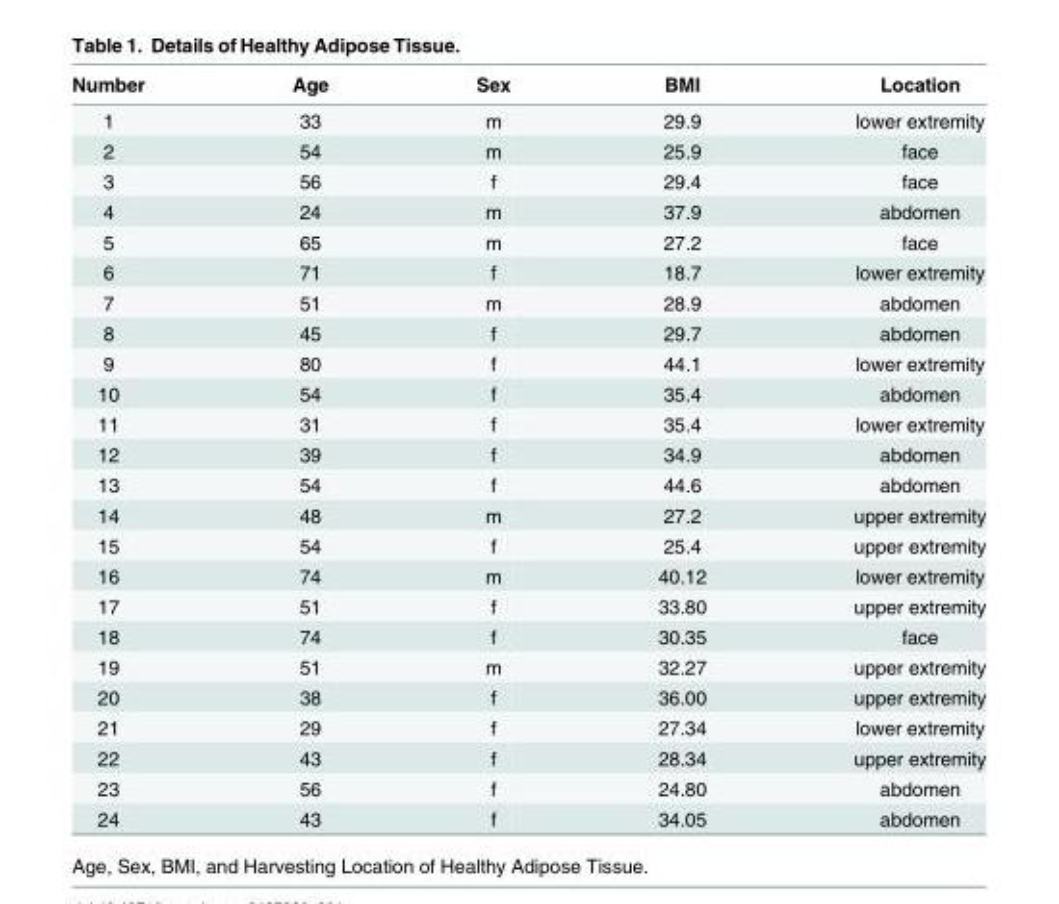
<table><thead><tr><td>Number</td><td>Age</td><td>Sex</td><td>BMI</td><td>Location</td></tr></thead><tbody><tr><td>1</td><td>33</td><td>m</td><td>29.9</td><td>lower extremity</td></tr><tr><td>2</td><td>54</td><td>m</td><td>25.9</td><td>face</td></tr><tr><td>3</td><td>56</td><td>f</td><td>29.4</td><td>face</td></tr><tr><td>4</td><td>24</td><td>m</td><td>37.9</td><td>abdomen</td></tr><tr><td>5</td><td>65</td><td>m</td><td>27.2</td><td>face</td></tr><tr><td>6</td><td>71</td><td>f</td><td>18.7</td><td>lower extremity</td></tr><tr><td>7</td><td>51</td><td>m</td><td>28.9</td><td>abdomen</td></tr><tr><td>8</td><td>45</td><td>f</td><td>29.7</td><td>abdomen</td></tr><tr><td>9</td><td>80</td><td>f</td><td>44.1</td><td>lower extremity</td></tr><tr><td>10</td><td>54</td><td>f</td><td>35.4</td><td>abdomen</td></tr><tr><td>11</td><td>31</td><td>f</td><td>35.4</td><td>lower extremity</td></tr><tr><td>12</td><td>39</td><td>f</td><td>34.9</td><td>abdomen</td></tr><tr><td>13</td><td>54</td><td>f</td><td>44.6</td><td>abdomen</td></tr><tr><td>14</td><td>48</td><td>m</td><td>27.2</td><td>upper extremity</td></tr><tr><td>15</td><td>54</td><td>f</td><td>25.4</td><td>upper extremity</td></tr><tr><td>16</td><td>74</td><td>m</td><td>40.12</td><td>lower extremity</td></tr><tr><td>17</td><td>51</td><td>f</td><td>33.80</td><td>upper extremity</td></tr><tr><td>18</td><td>74</td><td>f</td><td>30.35</td><td>face</td></tr><tr><td>19</td><td>51</td><td>m</td><td>32.27</td><td>upper extremity</td></tr><tr><td>20</td><td>38</td><td>f</td><td>36.00</td><td>upper extremity</td></tr><tr><td>21</td><td>29</td><td>f</td><td>27.34</td><td>lower extremity</td></tr><tr><td>22</td><td>43</td><td>f</td><td>28.34</td><td>upper extremity</td></tr><tr><td>23</td><td>56</td><td>f</td><td>24.80</td><td>abdomen</td></tr><tr><td>24</td><td>43</td><td>f</td><td>34.05</td><td>abdomen</td></tr></tbody></table>